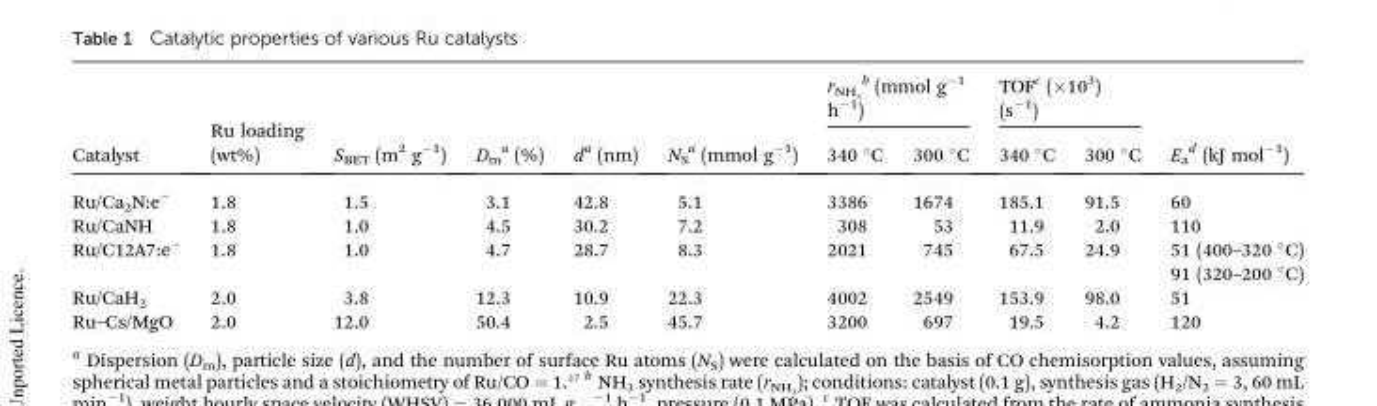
<table><thead><tr><td rowspan="2">Catalyst</td><td rowspan="2">Ru loading (wt%)</td><td rowspan="2">S<sub>BET</sub> (m<sup>2</sup> g<sup>–1</sup>)</td><td rowspan="2">D<sub>m</sub> a (%)</td><td rowspan="2">da (nm)</td><td rowspan="2">N<sub>S</sub> a (mmol g<sup>–1</sup>)</td><td colspan="2">rNH3 b (mmol g–1 h–1)</td><td colspan="2">TOF<sup>c</sup> (×10<sup>3</sup>) (s<sup>–1</sup>)</td><td rowspan="2">E<sub>a</sub> d (kJ mol<sup>–1</sup>)</td></tr><tr><td>340 °C</td><td>300 °C</td><td>340 °C</td><td>300 °C</td></tr></thead><tbody><tr><td>Ru/Ca<sub>2</sub>N:e<sup>–</sup></td><td>1.8</td><td>1.5</td><td>3.1</td><td>42.8</td><td>5.1</td><td>3386</td><td>1674</td><td>185.1</td><td>91.5</td><td>60</td></tr><tr><td>Ru/CaNH</td><td>1.8</td><td>1.0</td><td>4.5</td><td>30.2</td><td>7.2</td><td>308</td><td>53</td><td>11.9</td><td>2.0</td><td>110</td></tr><tr><td rowspan="2">Ru/C12A7:e<sup>–</sup></td><td rowspan="2">1.8</td><td rowspan="2">1.0</td><td rowspan="2">4.7</td><td rowspan="2">28.7</td><td rowspan="2">8.3</td><td rowspan="2">2021</td><td rowspan="2">745</td><td rowspan="2">67.5</td><td rowspan="2">24.9</td><td>51 (400–320 °C)</td></tr><tr><td>91 (320–200 °C)</td></tr><tr><td>Ru/CaH<sub>2</sub></td><td>2.0</td><td>3.8</td><td>12.3</td><td>10.9</td><td>22.3</td><td>4002</td><td>2549</td><td>153.9</td><td>98.0</td><td>51</td></tr><tr><td>Ru–Cs/MgO</td><td>2.0</td><td>12.0</td><td>50.4</td><td>2.5</td><td>45.7</td><td>3200</td><td>697</td><td>19.5</td><td>4.2</td><td>120</td></tr></tbody></table>